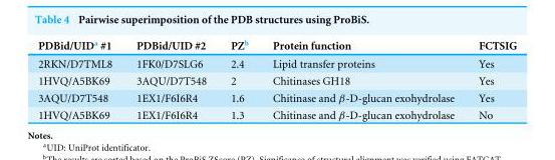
<table><thead><tr><td>PDBid/UID<sup>a</sup> #1</td><td>PDBid/UID #2</td><td>PZ<sup>b</sup></td><td>Protein function</td><td>FCTSIG</td></tr></thead><tbody><tr><td>2RKN/D7TML8</td><td>1FK0/D7SLG6</td><td>2.4</td><td>Lipid transfer proteins</td><td>Yes</td></tr><tr><td>1HVQ/A5BK69</td><td>3AQU/D7T548</td><td>2</td><td>Chitinases GH18</td><td>Yes</td></tr><tr><td>3AQU/D7T548</td><td>1EX1/F6I6R4</td><td>1.6</td><td>Chitinase and β-D-glucan exohydrolase</td><td>Yes</td></tr><tr><td>1HVQ/A5BK69</td><td>1EX1/F6I6R4</td><td>1.3</td><td>Chitinase and β-D-glucan exohydrolase</td><td>No</td></tr></tbody></table>